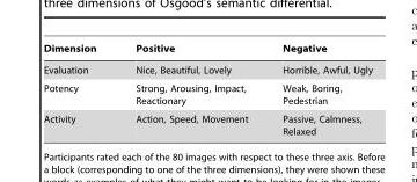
<table><thead><tr><td>Dimension</td><td>Positive</td><td>Negative</td></tr></thead><tbody><tr><td>Evaluation</td><td>Nice, Beautiful, Lovely</td><td>Horrible, Awful, Ugly</td></tr><tr><td>Potency</td><td>Strong, Arousing, Impact, Reactionary</td><td>Weak, Boring, Pedestrian</td></tr><tr><td>Activity</td><td>Action, Speed, Movement</td><td>Passive, Calmness, Relaxed</td></tr></tbody></table>